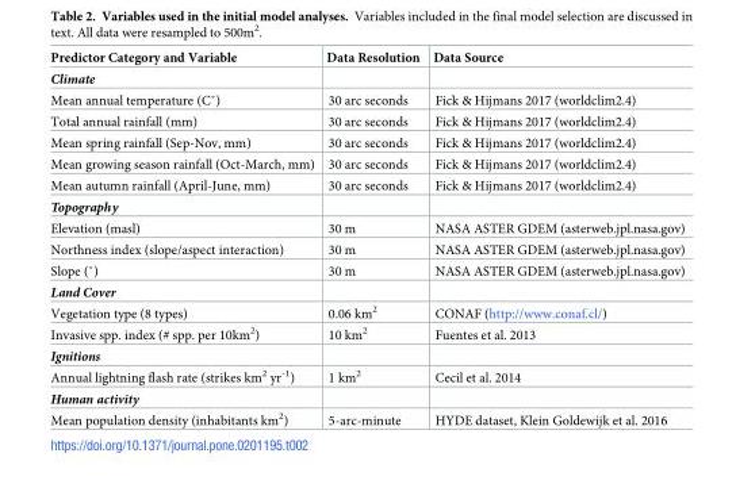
<table><thead><tr><td>Predictor Category and Variable</td><td>Data Resolution</td><td>Data Source</td></tr></thead><tbody><tr><td colspan="3">Climate</td></tr><tr><td>Mean annual temperature (C˚)</td><td>30 arc seconds</td><td>Fick &amp; Hijmans 2017 (worldclim2.4)</td></tr><tr><td>Total annual rainfall (mm)</td><td>30 arc seconds</td><td>Fick &amp; Hijmans 2017 (worldclim2.4)</td></tr><tr><td>Mean spring rainfall (Sep-Nov, mm)</td><td>30 arc seconds</td><td>Fick &amp; Hijmans 2017 (worldclim2.4)</td></tr><tr><td>Mean growing season rainfall (Oct-March, mm)</td><td>30 arc seconds</td><td>Fick &amp; Hijmans 2017 (worldclim2.4)</td></tr><tr><td>Mean autumn rainfall (April-June, mm)</td><td>30 arc seconds</td><td>Fick &amp; Hijmans 2017 (worldclim2.4)</td></tr><tr><td colspan="3">Topography</td></tr><tr><td>Elevation (masl)</td><td>30 m</td><td>NASA ASTER GDEM (asterweb.jpl.nasa.gov)</td></tr><tr><td>Northness index (slope/aspect interaction)</td><td>30 m</td><td>NASA ASTER GDEM (asterweb.jpl.nasa.gov)</td></tr><tr><td>Slope (˚)</td><td>30 m</td><td>NASA ASTER GDEM (asterweb.jpl.nasa.gov)</td></tr><tr><td colspan="3">Land Cover</td></tr><tr><td>Vegetation type (8 types)</td><td>0.06 km<sup>2</sup></td><td>CONAF (http://www.conaf.cl/)</td></tr><tr><td>Invasive spp. index (# spp. per 10km<sup>2</sup>)</td><td>10 km<sup>2</sup></td><td>Fuentes et al. 2013</td></tr><tr><td colspan="3">Ignitions</td></tr><tr><td>Annual lightning flash rate (strikes km<sup>2</sup> yr<sup>-1</sup>)</td><td>1 km<sup>2</sup></td><td>Cecil et al. 2014</td></tr><tr><td colspan="3">Human activity</td></tr><tr><td>Mean population density (inhabitants km<sup>2</sup>)</td><td>5-arc-minute</td><td>HYDE dataset, Klein Goldewijk et al. 2016</td></tr></tbody></table>